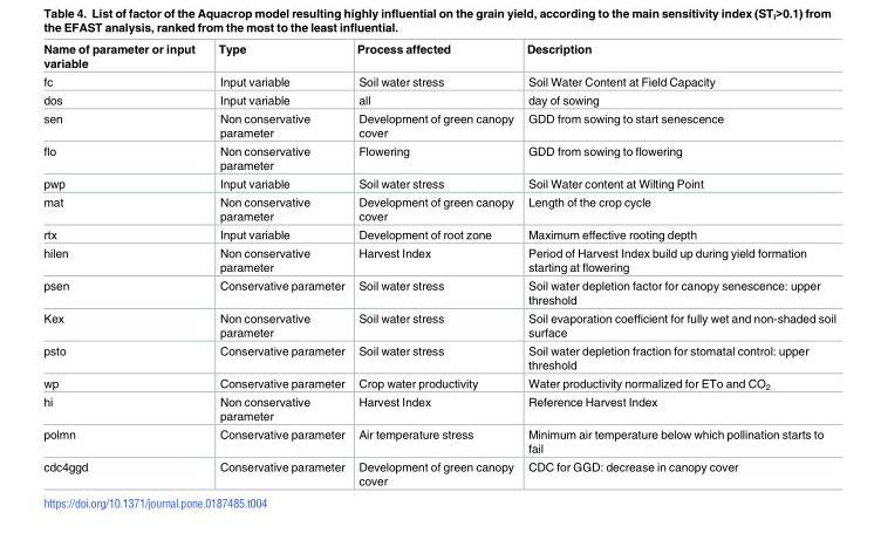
<table><thead><tr><td>Name of parameter or input variable</td><td>Type</td><td>Process affected</td><td>Description</td></tr></thead><tbody><tr><td>fc</td><td>Input variable</td><td>Soil water stress</td><td>Soil Water Content at Field Capacity</td></tr><tr><td>dos</td><td>Input variable</td><td>all</td><td>day of sowing</td></tr><tr><td>sen</td><td>Non conservative parameter</td><td>Development of green canopy cover</td><td>GDD from sowing to start senescence</td></tr><tr><td>flo</td><td>Non conservative parameter</td><td>Flowering</td><td>GDD from sowing to flowering</td></tr><tr><td>pwp</td><td>Input variable</td><td>Soil water stress</td><td>Soil Water content at Wilting Point</td></tr><tr><td>mat</td><td>Non conservative parameter</td><td>Development of green canopy cover</td><td>Length of the crop cycle</td></tr><tr><td>rtx</td><td>Input variable</td><td>Development of root zone</td><td>Maximum effective rooting depth</td></tr><tr><td>hilen</td><td>Non conservative parameter</td><td>Harvest Index</td><td>Period of Harvest Index build up during yield formation starting at flowering</td></tr><tr><td>psen</td><td>Conservative parameter</td><td>Soil water stress</td><td>Soil water depletion factor for canopy senescence: upper threshold</td></tr><tr><td>Kex</td><td>Non conservative parameter</td><td>Soil water stress</td><td>Soil evaporation coefficient for fully wet and non-shaded soil surface</td></tr><tr><td>psto</td><td>Conservative parameter</td><td>Soil water stress</td><td>Soil water depletion fraction for stomatal control: upper threshold</td></tr><tr><td>wp</td><td>Conservative parameter</td><td>Crop water productivity</td><td>Water productivity normalized for ETo and CO<sub>2</sub></td></tr><tr><td>hi</td><td>Non conservative parameter</td><td>Harvest Index</td><td>Reference Harvest Index</td></tr><tr><td>polmn</td><td>Conservative parameter</td><td>Air temperature stress</td><td>Minimum air temperature below which pollination starts to fail</td></tr><tr><td>cdc4ggd</td><td>Conservative parameter</td><td>Development of green canopy cover</td><td>CDC for GGD: decrease in canopy cover</td></tr></tbody></table>